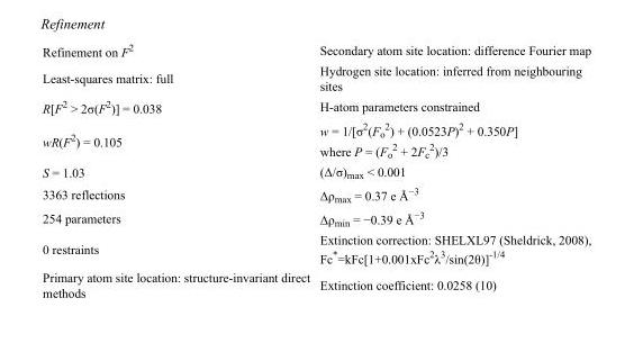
<table><tbody><tr><td>Refinement on F<sup>2</sup></td><td>Secondary atom site location: difference Fourier map</td></tr><tr><td>Least-squares matrix: full</td><td>Hydrogen site location: inferred from neighbouring sites</td></tr><tr><td>R[F<sup>2</sup> &gt; 2σ(F<sup>2</sup>)] = 0.038</td><td>H-atom parameters constrained</td></tr><tr><td>wR(F<sup>2</sup>) = 0.105</td><td>w = 1/[σ<sup>2</sup>(F<sub>o</sub> <sup>2</sup>) + (0.0523P)<sup>2</sup> + 0.350P] where P = (F<sub>o</sub> <sup>2</sup> + 2F<sub>c</sub> <sup>2</sup>)/3</td></tr><tr><td>S = 1.03</td><td>(Δ/σ)<sub>max</sub> &lt; 0.001</td></tr><tr><td>3363 reflections</td><td>Δρ<sub>max</sub> = 0.37 e Å<sup>−3</sup></td></tr><tr><td>254 parameters</td><td>Δρ<sub>min</sub> = −0.39 e Å<sup>−3</sup></td></tr><tr><td>0 restraints</td><td>Extinction correction: SHELXL97 (Sheldrick, 2008), Fc*=kFc[1+0.001xFc<sup>2</sup>λ<sup>3</sup>/sin(2θ)]<sup>-1/4</sup></td></tr><tr><td>Primary atom site location: structure-invariant direct methods</td><td>Extinction coefficient: 0.0258 (10)</td></tr></tbody></table>